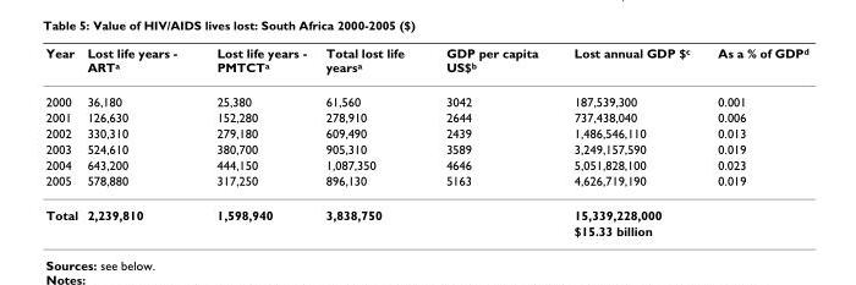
<table><thead><tr><td>Year</td><td>Lost life years - ART<sup>a</sup></td><td>Lost life years - PMTCT<sup>a</sup></td><td>Total lost life years<sup>a</sup></td><td>GDP per capita US$<sup>b</sup></td><td>Lost annual GDP $<sup>c</sup></td><td>As a % of GDP<sup>d</sup></td></tr></thead><tbody><tr><td>2000</td><td>36,180</td><td>25,380</td><td>61,560</td><td>3042</td><td>187,539,300</td><td>0.001</td></tr><tr><td>2001</td><td>126,630</td><td>152,280</td><td>278,910</td><td>2644</td><td>737,438,040</td><td>0.006</td></tr><tr><td>2002</td><td>330,310</td><td>279,180</td><td>609,490</td><td>2439</td><td>1,486,546,110</td><td>0.013</td></tr><tr><td>2003</td><td>524,610</td><td>380,700</td><td>905,310</td><td>3589</td><td>3,249,157,590</td><td>0.019</td></tr><tr><td>2004</td><td>643,200</td><td>444,150</td><td>1,087,350</td><td>4646</td><td>5,051,828,100</td><td>0.023</td></tr><tr><td>2005</td><td>578,880</td><td>317,250</td><td>896,130</td><td>5163</td><td>4,626,719,190</td><td>0.019</td></tr><tr><td rowspan="2">Total</td><td>2,239,810</td><td>1,598,940</td><td>3,838,750</td><td></td><td>15,339,228,000</td><td></td></tr><tr><td></td><td></td><td></td><td></td><td>$15.33 billion</td><td></td></tr></tbody></table>